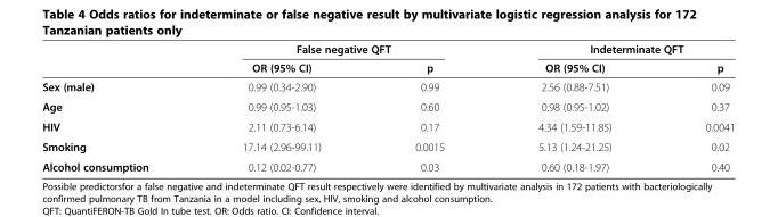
<table><thead><tr><td rowspan="2"></td><td colspan="2">False negative QFT</td><td colspan="2">Indeterminate QFT</td></tr><tr><td>OR (95% CI)</td><td>p</td><td>OR (95% CI)</td><td>p</td></tr></thead><tbody><tr><td>Sex (male)</td><td>0.99 (0.34-2.90)</td><td>0.99</td><td>2.56 (0.88-7.51)</td><td>0.09</td></tr><tr><td>Age</td><td>0.99 (0.95-1.03)</td><td>0.60</td><td>0.98 (0.95-1.02)</td><td>0.37</td></tr><tr><td>HIV</td><td>2.11 (0.73-6.14)</td><td>0.17</td><td>4.34 (1.59-11.85)</td><td>0.0041</td></tr><tr><td>Smoking</td><td>17.14 (2.96-99.11)</td><td>0.0015</td><td>5.13 (1.24-21.25)</td><td>0.02</td></tr><tr><td>Alcohol consumption</td><td>0.12 (0.02-0.77)</td><td>0.03</td><td>0.60 (0.18-1.97)</td><td>0.40</td></tr></tbody></table>